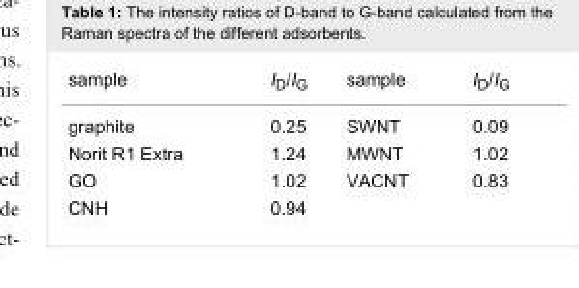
<table><tbody><tr><td>sample</td><td>I<sub>D</sub>/I<sub>G</sub></td><td>sample</td><td>I<sub>D</sub>/I<sub>G</sub></td></tr><tr><td>graphite</td><td>0.25</td><td>SWNT</td><td>0.09</td></tr><tr><td>Norit R1 Extra</td><td>1.24</td><td>MWNT</td><td>1.02</td></tr><tr><td>GO</td><td>1.02</td><td>VACNT</td><td>0.83</td></tr><tr><td>CNH</td><td>0.94</td><td></td><td></td></tr></tbody></table>